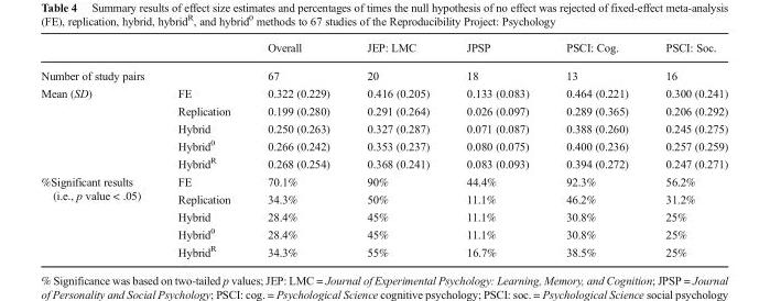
<table><thead><tr><td></td><td></td><td>Overall</td><td>JEP: LMC</td><td>JPSP</td><td>PSCI: Cog.</td><td>PSCI: Soc.</td></tr></thead><tbody><tr><td colspan="2">Number of study pairs</td><td>67</td><td>20</td><td>18</td><td>13</td><td>16</td></tr><tr><td rowspan="5">Mean (SD)</td><td>FE</td><td>0.322 (0.229)</td><td>0.416 (0.205)</td><td>0.133 (0.083)</td><td>0.464 (0.221)</td><td>0.300 (0.241)</td></tr><tr><td>Replication</td><td>0.199 (0.280)</td><td>0.291 (0.264)</td><td>0.026 (0.097)</td><td>0.289 (0.365)</td><td>0.206 (0.292)</td></tr><tr><td>Hybrid</td><td>0.250 (0.263)</td><td>0.327 (0.287)</td><td>0.071 (0.087)</td><td>0.388 (0.260)</td><td>0.245 (0.275)</td></tr><tr><td>Hybrid<sup>0</sup></td><td>0.266 (0.242)</td><td>0.353 (0.237)</td><td>0.080 (0.075)</td><td>0.400 (0.236)</td><td>0.257 (0.259)</td></tr><tr><td>Hybrid<sup>R</sup></td><td>0.268 (0.254)</td><td>0.368 (0.241)</td><td>0.083 (0.093)</td><td>0.394 (0.272)</td><td>0.247 (0.271)</td></tr><tr><td rowspan="5">%Significant results (i.e., p value &lt; .05)</td><td>FE</td><td>70.1%</td><td>90%</td><td>44.4%</td><td>92.3%</td><td>56.2%</td></tr><tr><td>Replication</td><td>34.3%</td><td>50%</td><td>11.1%</td><td>46.2%</td><td>31.2%</td></tr><tr><td>Hybrid</td><td>28.4%</td><td>45%</td><td>11.1%</td><td>30.8%</td><td>25%</td></tr><tr><td>Hybrid<sup>0</sup></td><td>28.4%</td><td>45%</td><td>11.1%</td><td>30.8%</td><td>25%</td></tr><tr><td>Hybrid<sup>R</sup></td><td>34.3%</td><td>55%</td><td>16.7%</td><td>38.5%</td><td>25%</td></tr></tbody></table>